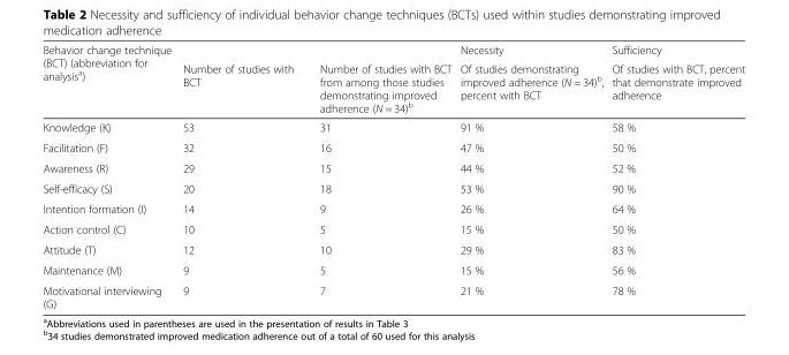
<table><thead><tr><td rowspan="2">Behavior change technique (BCT) (abbreviation for analysis<sup>a</sup>)</td><td rowspan="2">Number of studies with BCT</td><td rowspan="2">Number of studies with BCT from among those studies demonstrating improved adherence (N = 34)<sup>b</sup></td><td rowspan="2">Necessity Of studies demonstrating improved adherence (N = 34)<sup>b</sup>, percent with BCT</td><td rowspan="2">Sufficiency Of studies with BCT, percent that demonstrate improved adherence</td></tr><tr></tr></thead><tbody><tr><td>Knowledge (K)</td><td>53</td><td>31</td><td>91 %</td><td>58 %</td></tr><tr><td>Facilitation (F)</td><td>32</td><td>16</td><td>47 %</td><td>50 %</td></tr><tr><td>Awareness (R)</td><td>29</td><td>15</td><td>44 %</td><td>52 %</td></tr><tr><td>Self-efficacy (S)</td><td>20</td><td>18</td><td>53 %</td><td>90 %</td></tr><tr><td>Intention formation (I)</td><td>14</td><td>9</td><td>26 %</td><td>64 %</td></tr><tr><td>Action control (C)</td><td>10</td><td>5</td><td>15 %</td><td>50 %</td></tr><tr><td>Attitude (T)</td><td>12</td><td>10</td><td>29 %</td><td>83 %</td></tr><tr><td>Maintenance (M)</td><td>9</td><td>5</td><td>15 %</td><td>56 %</td></tr><tr><td>Motivational interviewing (G)</td><td>9</td><td>7</td><td>21 %</td><td>78 %</td></tr></tbody></table>